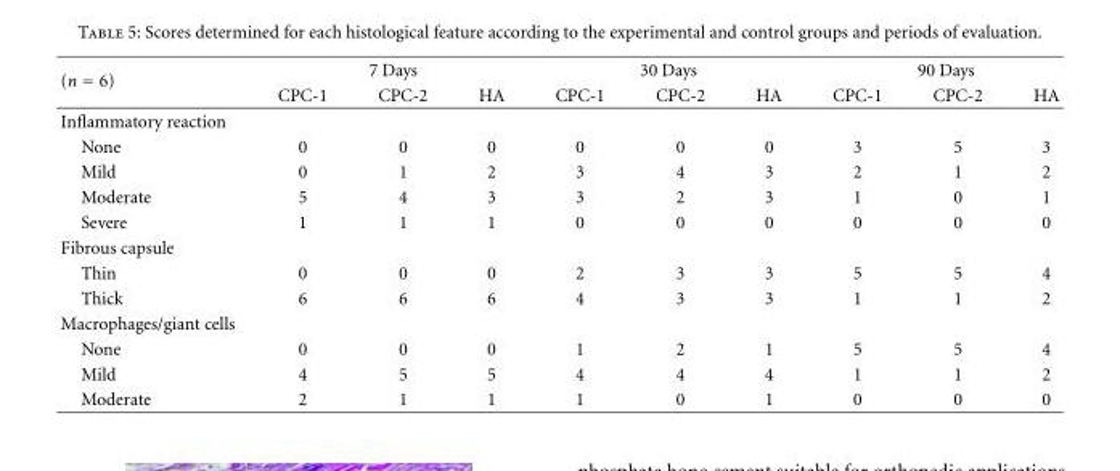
<table><thead><tr><td rowspan="2">(n = 6)</td><td colspan="3">7 Days</td><td colspan="3">30 Days</td><td colspan="3">90 Days</td></tr><tr><td>CPC-1</td><td>CPC-2</td><td>HA</td><td>CPC-1</td><td>CPC-2</td><td>HA</td><td>CPC-1</td><td>CPC-2</td><td>HA</td></tr></thead><tbody><tr><td colspan="10">Inflammatory reaction</td></tr><tr><td>None</td><td>0</td><td>0</td><td>0</td><td>0</td><td>0</td><td>0</td><td>3</td><td>5</td><td>3</td></tr><tr><td>Mild</td><td>0</td><td>1</td><td>2</td><td>3</td><td>4</td><td>3</td><td>2</td><td>1</td><td>2</td></tr><tr><td>Moderate</td><td>5</td><td>4</td><td>3</td><td>3</td><td>2</td><td>3</td><td>1</td><td>0</td><td>1</td></tr><tr><td>Severe</td><td>1</td><td>1</td><td>1</td><td>0</td><td>0</td><td>0</td><td>0</td><td>0</td><td>0</td></tr><tr><td colspan="10">Fibrous capsule</td></tr><tr><td>Thin</td><td>0</td><td>0</td><td>0</td><td>2</td><td>3</td><td>3</td><td>5</td><td>5</td><td>4</td></tr><tr><td>Thick</td><td>6</td><td>6</td><td>6</td><td>4</td><td>3</td><td>3</td><td>1</td><td>1</td><td>2</td></tr><tr><td colspan="10">Macrophages/giant cells</td></tr><tr><td>None</td><td>0</td><td>0</td><td>0</td><td>1</td><td>2</td><td>1</td><td>5</td><td>5</td><td>4</td></tr><tr><td>Mild</td><td>4</td><td>5</td><td>5</td><td>4</td><td>4</td><td>4</td><td>1</td><td>1</td><td>2</td></tr><tr><td>Moderate</td><td>2</td><td>1</td><td>1</td><td>1</td><td>0</td><td>1</td><td>0</td><td>0</td><td>0</td></tr></tbody></table>